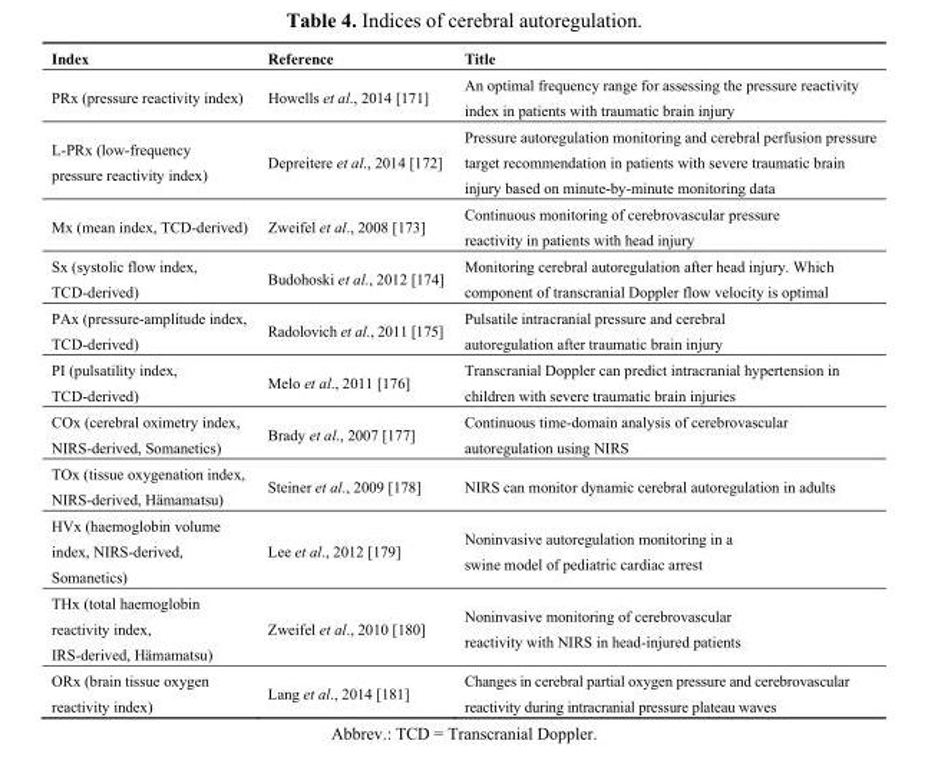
<table><thead><tr><td>Index</td><td>Reference</td><td>Title</td></tr></thead><tbody><tr><td>PRx (pressure reactivity index)</td><td>Howells et al., 2014 [171]</td><td>An optimal frequency range for assessing the pressure reactivity index in patients with traumatic brain injury</td></tr><tr><td>L-PRx (low-frequency pressure reactivity index)</td><td>Depreitere et al., 2014 [172]</td><td>Pressure autoregulation monitoring and cerebral perfusion pressure target recommendation in patients with severe traumatic brain injury based on minute-by-minute monitoring data</td></tr><tr><td>Mx (mean index, TCD-derived)</td><td>Zweifel et al., 2008 [173]</td><td>Continuous monitoring of cerebrovascular pressure reactivity in patients with head injury</td></tr><tr><td>Sx (systolic flow index, TCD-derived)</td><td>Budohoski et al., 2012 [174]</td><td>Monitoring cerebral autoregulation after head injury. Which component of transcranial Doppler flow velocity is optimal</td></tr><tr><td>PAx (pressure-amplitude index, TCD-derived)</td><td>Radolovich et al., 2011 [175]</td><td>Pulsatile intracranial pressure and cerebral autoregulation after traumatic brain injury</td></tr><tr><td>PI (pulsatility index, TCD-derived)</td><td>Melo et al., 2011 [176]</td><td>Transcranial Doppler can predict intracranial hypertension in children with severe traumatic brain injuries</td></tr><tr><td>COx (cerebral oximetry index, NIRS-derived, Somanetics)</td><td>Brady et al., 2007 [177]</td><td>Continuous time-domain analysis of cerebrovascular autoregulation using NIRS</td></tr><tr><td>TOx (tissue oxygenation index, NIRS-derived, Hämamatsu)</td><td>Steiner et al., 2009 [178]</td><td>NIRS can monitor dynamic cerebral autoregulation in adults</td></tr><tr><td>HVx (haemoglobin volume index, NIRS-derived, Somanetics)</td><td>Lee et al., 2012 [179]</td><td>Noninvasive autoregulation monitoring in a swine model of pediatric cardiac arrest</td></tr><tr><td>THx (total haemoglobin reactivity index, IRS-derived, Hämamatsu)</td><td>Zweifel et al., 2010 [180]</td><td>Noninvasive monitoring of cerebrovascular reactivity with NIRS in head-injured patients</td></tr><tr><td>ORx (brain tissue oxygen reactivity index)</td><td>Lang et al., 2014 [181]</td><td>Changes in cerebral partial oxygen pressure and cerebrovascular reactivity during intracranial pressure plateau waves</td></tr></tbody></table>